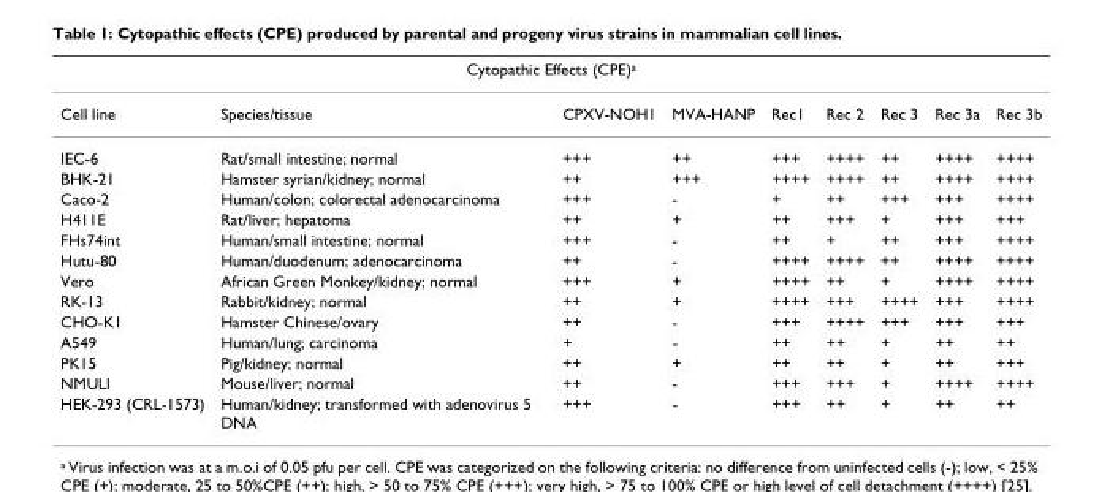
<table><thead><tr><td colspan="9">Cytopathic Effects (CPE)<sup>a</sup></td></tr><tr><td>Cell line</td><td>Species/tissue</td><td>CPXV-NOH1</td><td>MVA-HANP</td><td>Rec1</td><td>Rec 2</td><td>Rec 3</td><td>Rec 3a</td><td>Rec 3b</td></tr></thead><tbody><tr><td>IEC-6</td><td>Rat/small intestine; normal</td><td>+++</td><td>++</td><td>+++</td><td>++++</td><td>++</td><td>++++</td><td>++++</td></tr><tr><td>BHK-21</td><td>Hamster syrian/kidney; normal</td><td>++</td><td>+++</td><td>++++</td><td>++++</td><td>++</td><td>++++</td><td>++++</td></tr><tr><td>Caco-2</td><td>Human/colon; colorectal adenocarcinoma</td><td>+++</td><td>-</td><td>+</td><td>++</td><td>+++</td><td>+++</td><td>++++</td></tr><tr><td>H411E</td><td>Rat/liver; hepatoma</td><td>++</td><td>+</td><td>++</td><td>+++</td><td>+</td><td>+++</td><td>+++</td></tr><tr><td>FHs74int</td><td>Human/small intestine; normal</td><td>+++</td><td>-</td><td>++</td><td>+</td><td>++</td><td>+++</td><td>++++</td></tr><tr><td>Hutu-80</td><td>Human/duodenum; adenocarcinoma</td><td>++</td><td>-</td><td>++++</td><td>++++</td><td>++</td><td>++++</td><td>++++</td></tr><tr><td>Vero</td><td>African Green Monkey/kidney; normal</td><td>+++</td><td>+</td><td>++++</td><td>++</td><td>+</td><td>++++</td><td>++++</td></tr><tr><td>RK-13</td><td>Rabbit/kidney; normal</td><td>++</td><td>+</td><td>++++</td><td>+++</td><td>++++</td><td>+++</td><td>++++</td></tr><tr><td>CHO-K1</td><td>Hamster Chinese/ovary</td><td>++</td><td>-</td><td>+++</td><td>++++</td><td>+++</td><td>+++</td><td>+++</td></tr><tr><td>A549</td><td>Human/lung; carcinoma</td><td>+</td><td>-</td><td>++</td><td>++</td><td>+</td><td>++</td><td>++</td></tr><tr><td>PK15</td><td>Pig/kidney; normal</td><td>++</td><td>+</td><td>++</td><td>++</td><td>+</td><td>++</td><td>+++</td></tr><tr><td>NMULI</td><td>Mouse/liver; normal</td><td>++</td><td>-</td><td>+++</td><td>+++</td><td>+</td><td>++++</td><td>++++</td></tr><tr><td>HEK-293 (CRL-1573)</td><td>Human/kidney; transformed with adenovirus 5 DNA</td><td>+++</td><td>-</td><td>+++</td><td>++</td><td>+</td><td>++</td><td>++</td></tr></tbody></table>